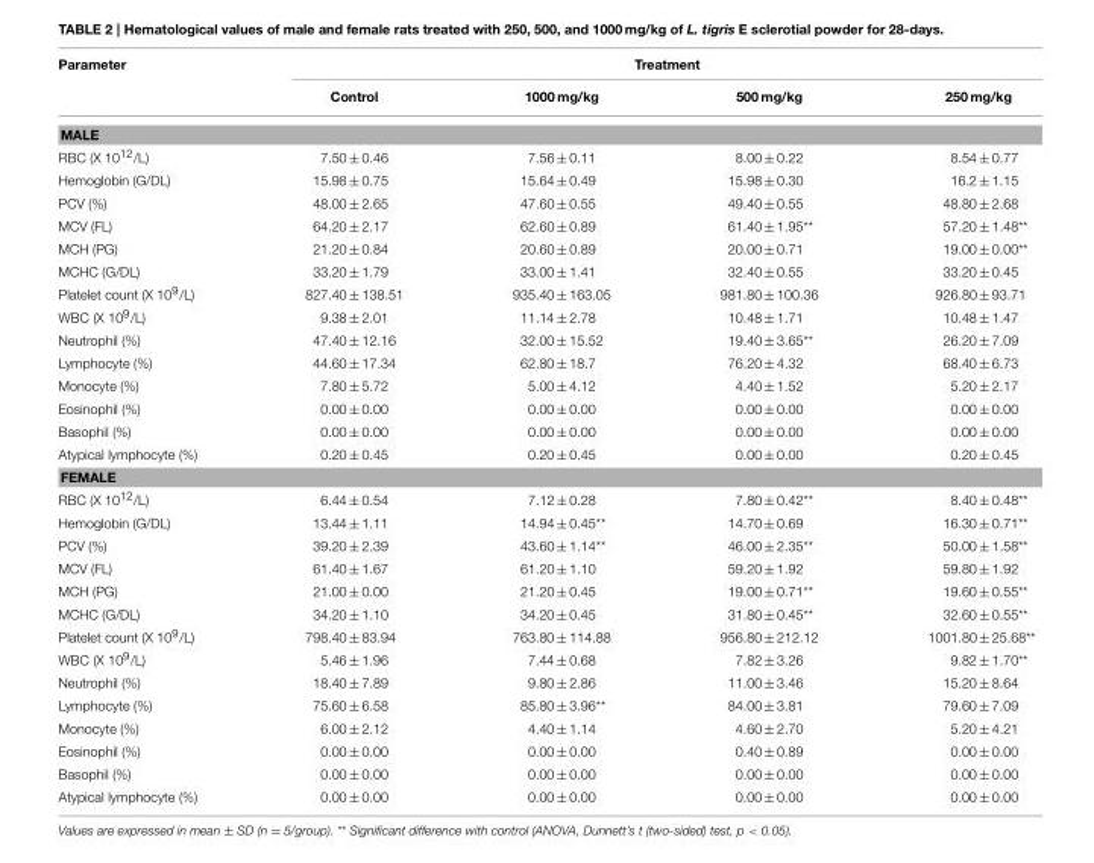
<table><thead><tr><td rowspan="2">Parameter</td><td colspan="4">Treatment</td></tr><tr><td>Control</td><td>1000 mg/kg</td><td>500 mg/kg</td><td>250 mg/kg</td></tr></thead><tbody><tr><td colspan="5">MALE</td></tr><tr><td>RBC (X 10<sup>12</sup>/L)</td><td>7.50 ± 0.46</td><td>7.56 ± 0.11</td><td>8.00 ± 0.22</td><td>8.54 ± 0.77</td></tr><tr><td>Hemoglobin (G/DL)</td><td>15.98 ± 0.75</td><td>15.64 ± 0.49</td><td>15.98 ± 0.30</td><td>16.2 ± 1.15</td></tr><tr><td>PCV (%)</td><td>48.00 ± 2.65</td><td>47.60 ± 0.55</td><td>49.40 ± 0.55</td><td>48.80 ± 2.68</td></tr><tr><td>MCV (FL)</td><td>64.20 ± 2.17</td><td>62.60 ± 0.89</td><td>61.40 ± 1.95**</td><td>57.20 ± 1.48**</td></tr><tr><td>MCH (PG)</td><td>21.20 ± 0.84</td><td>20.60 ± 0.89</td><td>20.00 ± 0.71</td><td>19.00 ± 0.00**</td></tr><tr><td>MCHC (G/DL)</td><td>33.20 ± 1.79</td><td>33.00 ± 1.41</td><td>32.40 ± 0.55</td><td>33.20 ± 0.45</td></tr><tr><td>Platelet count (X 10<sup>9</sup>/L)</td><td>827.40 ± 138.51</td><td>935.40 ± 163.05</td><td>981.80 ± 100.36</td><td>926.80 ± 93.71</td></tr><tr><td>WBC (X 10<sup>9</sup>/L)</td><td>9.38 ± 2.01</td><td>11.14 ± 2.78</td><td>10.48 ± 1.71</td><td>10.48 ± 1.47</td></tr><tr><td>Neutrophil (%)</td><td>47.40 ± 12.16</td><td>32.00 ± 15.52</td><td>19.40 ± 3.65**</td><td>26.20 ± 7.09</td></tr><tr><td>Lymphocyte (%)</td><td>44.60 ± 17.34</td><td>62.80 ± 18.7</td><td>76.20 ± 4.32</td><td>68.40 ± 6.73</td></tr><tr><td>Monocyte (%)</td><td>7.80 ± 5.72</td><td>5.00 ± 4.12</td><td>4.40 ± 1.52</td><td>5.20 ± 2.17</td></tr><tr><td>Eosinophil (%)</td><td>0.00 ± 0.00</td><td>0.00 ± 0.00</td><td>0.00 ± 0.00</td><td>0.00 ± 0.00</td></tr><tr><td>Basophil (%)</td><td>0.00 ± 0.00</td><td>0.00 ± 0.00</td><td>0.00 ± 0.00</td><td>0.00 ± 0.00</td></tr><tr><td>Atypical lymphocyte (%)</td><td>0.20 ± 0.45</td><td>0.20 ± 0.45</td><td>0.00 ± 0.00</td><td>0.20 ± 0.45</td></tr><tr><td colspan="5">FEMALE</td></tr><tr><td>RBC (X 10<sup>12</sup>/L)</td><td>6.44 ± 0.54</td><td>7.12 ± 0.28</td><td>7.80 ± 0.42**</td><td>8.40 ± 0.48**</td></tr><tr><td>Hemoglobin (G/DL)</td><td>13.44 ± 1.11</td><td>14.94 ± 0.45**</td><td>14.70 ± 0.69</td><td>16.30 ± 0.71**</td></tr><tr><td>PCV (%)</td><td>39.20 ± 2.39</td><td>43.60 ± 1.14**</td><td>46.00 ± 2.35**</td><td>50.00 ± 1.58**</td></tr><tr><td>MCV (FL)</td><td>61.40 ± 1.67</td><td>61.20 ± 1.10</td><td>59.20 ± 1.92</td><td>59.80 ± 1.92</td></tr><tr><td>MCH (PG)</td><td>21.00 ± 0.00</td><td>21.20 ± 0.45</td><td>19.00 ± 0.71**</td><td>19.60 ± 0.55**</td></tr><tr><td>MCHC (G/DL)</td><td>34.20 ± 1.10</td><td>34.20 ± 0.45</td><td>31.80 ± 0.45**</td><td>32.60 ± 0.55**</td></tr><tr><td>Platelet count (X 10<sup>9</sup>/L)</td><td>798.40 ± 83.94</td><td>763.80 ± 114.88</td><td>956.80 ± 212.12</td><td>1001.80 ± 25.68**</td></tr><tr><td>WBC (X 10<sup>9</sup>/L)</td><td>5.46 ± 1.96</td><td>7.44 ± 0.68</td><td>7.82 ± 3.26</td><td>9.82 ± 1.70**</td></tr><tr><td>Neutrophil (%)</td><td>18.40 ± 7.89</td><td>9.80 ± 2.86</td><td>11.00 ± 3.46</td><td>15.20 ± 8.64</td></tr><tr><td>Lymphocyte (%)</td><td>75.60 ± 6.58</td><td>85.80 ± 3.96**</td><td>84.00 ± 3.81</td><td>79.60 ± 7.09</td></tr><tr><td>Monocyte (%)</td><td>6.00 ± 2.12</td><td>4.40 ± 1.14</td><td>4.60 ± 2.70</td><td>5.20 ± 4.21</td></tr><tr><td>Eosinophil (%)</td><td>0.00 ± 0.00</td><td>0.00 ± 0.00</td><td>0.40 ± 0.89</td><td>0.00 ± 0.00</td></tr><tr><td>Basophil (%)</td><td>0.00 ± 0.00</td><td>0.00 ± 0.00</td><td>0.00 ± 0.00</td><td>0.00 ± 0.00</td></tr><tr><td>Atypical lymphocyte (%)</td><td>0.00 ± 0.00</td><td>0.00 ± 0.00</td><td>0.00 ± 0.00</td><td>0.00 ± 0.00</td></tr></tbody></table>